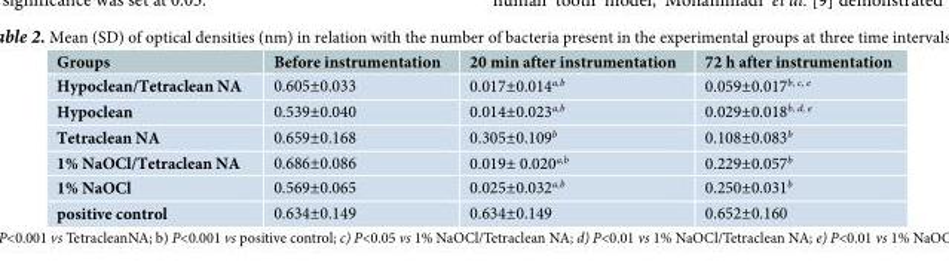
<table><thead><tr><td>Groups</td><td>Before instrumentation</td><td>20 min after instrumentation</td><td>72 h after instrumentation</td></tr></thead><tbody><tr><td>Hypoclean/Tetraclean NA</td><td>0.605±0.033</td><td>0.017±0.014<sup>a</sup>,<sup>b</sup></td><td>0.059±0.017b, c, e</td></tr><tr><td>Hypoclean</td><td>0.539±0.040</td><td>0.014±0.023<sup>a</sup>,<sup>b</sup></td><td>0.029±0.018b, d, e</td></tr><tr><td>Tetraclean NA</td><td>0.659±0.168</td><td>0.305±0.109<sup>b</sup></td><td>0.108±0.083<sup>b</sup></td></tr><tr><td>1% NaOCl/Tetraclean NA</td><td>0.686±0.086</td><td>0.019± 0.020<sup>a</sup>,<sup>b</sup></td><td>0.229±0.057<sup>b</sup></td></tr><tr><td>1% NaOCl</td><td>0.569±0.065</td><td>0.025±0.032<sup>a</sup>,<sup>b</sup></td><td>0.250±0.031<sup>b</sup></td></tr><tr><td>positive control</td><td>0.634±0.149</td><td>0.634±0.149</td><td>0.652±0.160</td></tr></tbody></table>